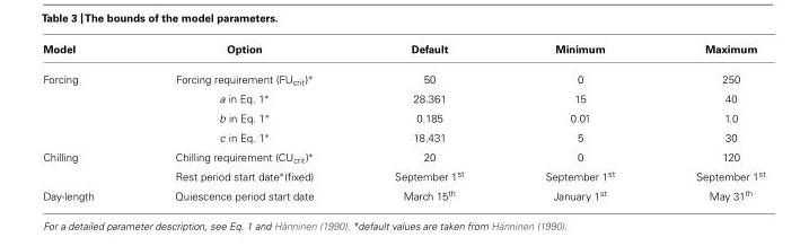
<table><thead><tr><td>Model</td><td>Option</td><td>Default</td><td>Minimum</td><td>Maximum</td></tr></thead><tbody><tr><td rowspan="4">Forcing</td><td>Forcing requirement (FU<sub>crit</sub>)∗</td><td>50</td><td>0</td><td>250</td></tr><tr><td>a in Eq. 1∗</td><td>28°361</td><td>15</td><td>40</td></tr><tr><td>b in Eq. 1∗</td><td>0.185</td><td>0.01</td><td>1.0</td></tr><tr><td>c in Eq. 1∗</td><td>18.431</td><td>5</td><td>30</td></tr><tr><td rowspan="2">Chilling</td><td>Chilling requirement (CU<sub>crit</sub>)∗</td><td>20</td><td>0</td><td>120</td></tr><tr><td>Rest period start date∗(fixed)</td><td>September 1<sup>st</sup></td><td>September 1<sup>st</sup></td><td>September 1<sup>st</sup></td></tr><tr><td>Day-length</td><td>Quiescence period start date</td><td>March 15<sup>th</sup></td><td>January 1<sup>st</sup></td><td>May 31<sup>th</sup></td></tr></tbody></table>